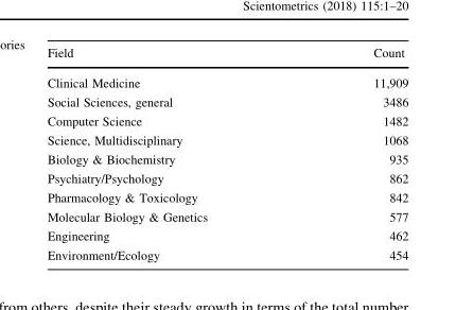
<table><thead><tr><td>Field</td><td>Count</td></tr></thead><tbody><tr><td>Clinical Medicine</td><td>11,909</td></tr><tr><td>Social Sciences, general</td><td>3486</td></tr><tr><td>Computer Science</td><td>1482</td></tr><tr><td>Science, Multidisciplinary</td><td>1068</td></tr><tr><td>Biology &amp; Biochemistry</td><td>935</td></tr><tr><td>Psychiatry/Psychology</td><td>862</td></tr><tr><td>Pharmacology &amp; Toxicology</td><td>842</td></tr><tr><td>Molecular Biology &amp; Genetics</td><td>577</td></tr><tr><td>Engineering</td><td>462</td></tr><tr><td>Environment/Ecology</td><td>454</td></tr></tbody></table>